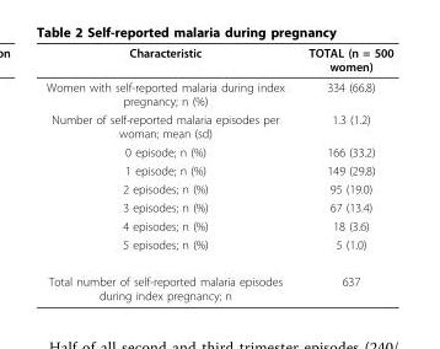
<table><thead><tr><td>Characteristic</td><td>TOTAL (n = 500 women)</td></tr></thead><tbody><tr><td>Women with self-reported malaria during index pregnancy; n (%)</td><td>334 (66.8)</td></tr><tr><td>Number of self-reported malaria episodes per woman; mean (sd)</td><td>1.3 (1.2)</td></tr><tr><td>0 episode; n (%)</td><td>166 (33.2)</td></tr><tr><td>1 episode; n (%)</td><td>149 (29.8)</td></tr><tr><td>2 episodes; n (%)</td><td>95 (19.0)</td></tr><tr><td>3 episodes; n (%)</td><td>67 (13.4)</td></tr><tr><td>4 episodes; n (%)</td><td>18 (3.6)</td></tr><tr><td>5 episodes; n (%)</td><td>5 (1.0)</td></tr><tr><td>Total number of self-reported malaria episodes during index pregnancy; n</td><td>637</td></tr></tbody></table>